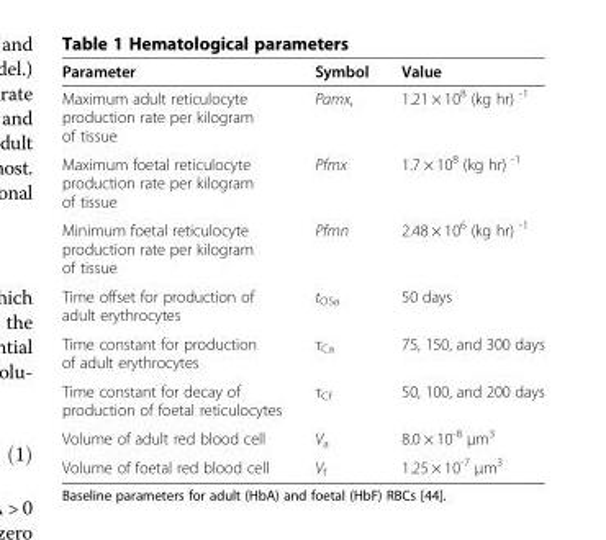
<table><thead><tr><td>Parameter</td><td>Symbol</td><td>Value</td></tr></thead><tbody><tr><td>Maximum adult reticulocyte production rate per kilogram of tissue</td><td>Pamx,</td><td>1.21 × 10<sup>8</sup> (kg hr) <sup>-1</sup></td></tr><tr><td>Maximum foetal reticulocyte production rate per kilogram of tissue</td><td>Pfmx</td><td>1.7 × 10<sup>8</sup> (kg hr) <sup>-1</sup></td></tr><tr><td>Minimum foetal reticulocyte production rate per kilogram of tissue</td><td>Pfmn</td><td>2.48 × 10<sup>6</sup> (kg hr) <sup>-1</sup></td></tr><tr><td>Time offset for production of adult erythrocytes</td><td>t<sub>OSa</sub></td><td>50 days</td></tr><tr><td>Time constant for production of adult erythrocytes</td><td>τ<sub>Ca</sub></td><td>75, 150, and 300 days</td></tr><tr><td>Time constant for decay of production of foetal reticulocytes</td><td>τ<sub>Cf</sub></td><td>50, 100, and 200 days</td></tr><tr><td>Volume of adult red blood cell</td><td>V<sub>a</sub></td><td>8.0 × 10<sup>-8</sup> μm<sup>3</sup></td></tr><tr><td>Volume of foetal red blood cell</td><td>V<sub>f</sub></td><td>1.25 × 10<sup>-7</sup> μm<sup>3</sup></td></tr></tbody></table>